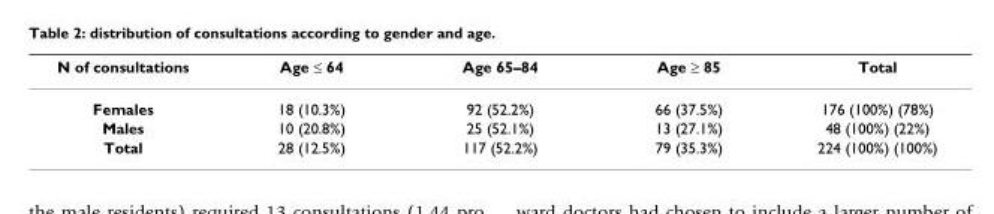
<table><thead><tr><td>N of consultations</td><td>Age ≤ 64</td><td>Age 65–84</td><td>Age ≥ 85</td><td>Total</td></tr></thead><tbody><tr><td>Females</td><td>18 (10.3%)</td><td>92 (52.2%)</td><td>66 (37.5%)</td><td>176 (100%) (78%)</td></tr><tr><td>Males</td><td>10 (20.8%)</td><td>25 (52.1%)</td><td>13 (27.1%)</td><td>48 (100%) (22%)</td></tr><tr><td>Total</td><td>28 (12.5%)</td><td>117 (52.2%)</td><td>79 (35.3%)</td><td>224 (100%) (100%)</td></tr></tbody></table>